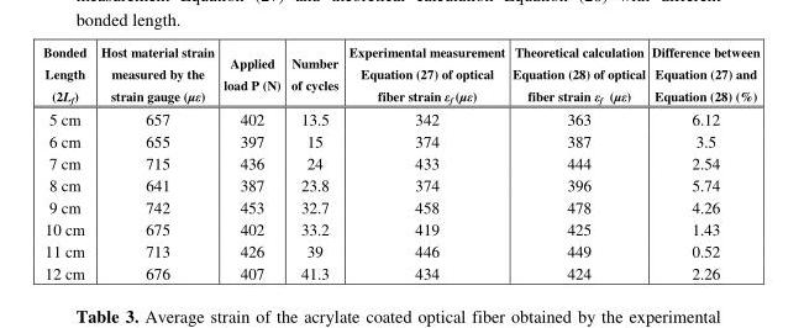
<table><thead><tr><td>Bonded Length (2Lf)</td><td>Host material strain measured by the strain gauge (με)</td><td>Applied load P (N)</td><td>Number of cycles</td><td>Experimental measurement Equation (27) of optical fiber strain εf (με)</td><td>Theoretical calculation Equation (28) of optical fiber strain εf (με)</td><td>Difference between Equation (27) and Equation (28) (%)</td></tr></thead><tbody><tr><td>5 cm</td><td>657</td><td>402</td><td>13.5</td><td>342</td><td>363</td><td>6.12</td></tr><tr><td>6 cm</td><td>655</td><td>397</td><td>15</td><td>374</td><td>387</td><td>3.5</td></tr><tr><td>7 cm</td><td>715</td><td>436</td><td>24</td><td>433</td><td>444</td><td>2.54</td></tr><tr><td>8 cm</td><td>641</td><td>387</td><td>23.8</td><td>374</td><td>396</td><td>5.74</td></tr><tr><td>9 cm</td><td>742</td><td>453</td><td>32.7</td><td>458</td><td>478</td><td>4.26</td></tr><tr><td>10 cm</td><td>675</td><td>402</td><td>33.2</td><td>419</td><td>425</td><td>1.43</td></tr><tr><td>11 cm</td><td>713</td><td>426</td><td>39</td><td>446</td><td>449</td><td>0.52</td></tr><tr><td>12 cm</td><td>676</td><td>407</td><td>41.3</td><td>434</td><td>424</td><td>2.26</td></tr></tbody></table>